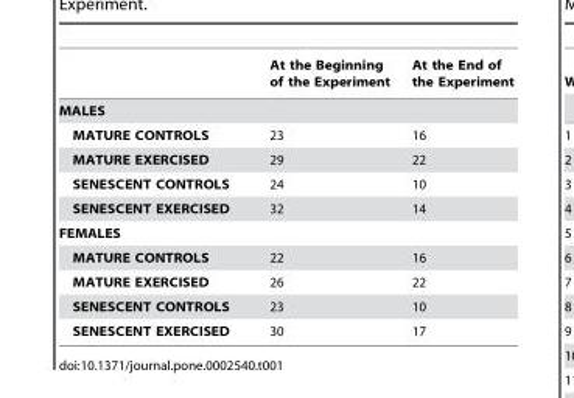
<table><thead><tr><td></td><td>At the Beginning of the Experiment</td><td>At the End of the Experiment</td></tr></thead><tbody><tr><td colspan="3">MALES</td></tr><tr><td>MATURE CONTROLS</td><td>23</td><td>16</td></tr><tr><td>MATURE EXERCISED</td><td>29</td><td>22</td></tr><tr><td>SENESCENT CONTROLS</td><td>24</td><td>10</td></tr><tr><td>SENESCENT EXERCISED</td><td>32</td><td>14</td></tr><tr><td colspan="3">FEMALES</td></tr><tr><td>MATURE CONTROLS</td><td>22</td><td>16</td></tr><tr><td>MATURE EXERCISED</td><td>26</td><td>22</td></tr><tr><td>SENESCENT CONTROLS</td><td>23</td><td>10</td></tr><tr><td>SENESCENT EXERCISED</td><td>30</td><td>17</td></tr></tbody></table>